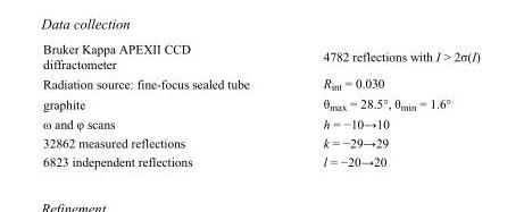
<table><tbody><tr><td>Bruker Kappa APEXII CCD diffractometer</td><td>4782 reflections with I &gt; 2σ(I)</td></tr><tr><td>Radiation source: fine-focus sealed tube</td><td>R<sub>int</sub> = 0.030</td></tr><tr><td>graphite</td><td>θ<sub>max</sub> = 28.5°, θ<sub>min</sub> = 1.6°</td></tr><tr><td>ω and φ scans</td><td>h = −10→10</td></tr><tr><td>32862 measured reflections</td><td>k = −29→29</td></tr><tr><td>6823 independent reflections</td><td>l = −20→20</td></tr></tbody></table>